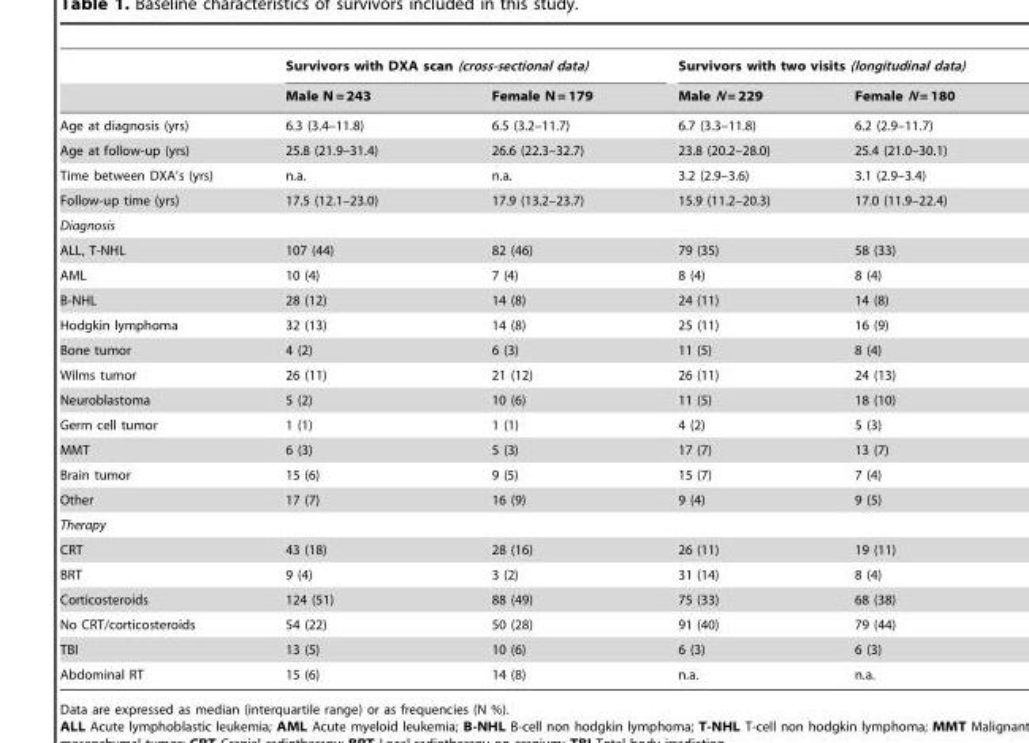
<table><thead><tr><td rowspan="2"></td><td colspan="2">Survivors with DXA scan (cross-sectional data)</td><td colspan="2">Survivors with two visits (longitudinal data)</td></tr><tr><td>Male N = 243</td><td>Female N = 179</td><td>Male N = 229</td><td>Female N = 180</td></tr></thead><tbody><tr><td>Age at diagnosis (yrs)</td><td>6.3 (3.4–11.8)</td><td>6.5 (3.2–11.7)</td><td>6.7 (3.3–11.8)</td><td>6.2 (2.9–11.7)</td></tr><tr><td>Age at follow-up (yrs)</td><td>25.8 (21.9–31.4)</td><td>26.6 (22.3–32.7)</td><td>23.8 (20.2–28.0)</td><td>25.4 (21.0–30.1)</td></tr><tr><td>Time between DXA’s (yrs)</td><td>n.a.</td><td>n.a.</td><td>3.2 (2.9–3.6)</td><td>3.1 (2.9–3.4)</td></tr><tr><td>Follow-up time (yrs)</td><td>17.5 (12.1–23.0)</td><td>17.9 (13.2–23.7)</td><td>15.9 (11.2–20.3)</td><td>17.0 (11.9–22.4)</td></tr><tr><td colspan="5">Diagnosis</td></tr><tr><td>ALL, T-NHL</td><td>107 (44)</td><td>82 (46)</td><td>79 (35)</td><td>58 (33)</td></tr><tr><td>AML</td><td>10 (4)</td><td>7 (4)</td><td>8 (4)</td><td>8 (4)</td></tr><tr><td>B-NHL</td><td>28 (12)</td><td>14 (8)</td><td>24 (11)</td><td>14 (8)</td></tr><tr><td>Hodgkin lymphoma</td><td>32 (13)</td><td>14 (8)</td><td>25 (11)</td><td>16 (9)</td></tr><tr><td>Bone tumor</td><td>4 (2)</td><td>6 (3)</td><td>11 (5)</td><td>8 (4)</td></tr><tr><td>Wilms tumor</td><td>26 (11)</td><td>21 (12)</td><td>26 (11)</td><td>24 (13)</td></tr><tr><td>Neuroblastoma</td><td>5 (2)</td><td>10 (6)</td><td>11 (5)</td><td>18 (10)</td></tr><tr><td>Germ cell tumor</td><td>1 (1)</td><td>1 (1)</td><td>4 (2)</td><td>5 (3)</td></tr><tr><td>MMT</td><td>6 (3)</td><td>5 (3)</td><td>17 (7)</td><td>13 (7)</td></tr><tr><td>Brain tumor</td><td>15 (6)</td><td>9 (5)</td><td>15 (7)</td><td>7 (4)</td></tr><tr><td>Other</td><td>17 (7)</td><td>16 (9)</td><td>9 (4)</td><td>9 (5)</td></tr><tr><td colspan="5">Therapy</td></tr><tr><td>CRT</td><td>43 (18)</td><td>28 (16)</td><td>26 (11)</td><td>19 (11)</td></tr><tr><td>BRT</td><td>9 (4)</td><td>3 (2)</td><td>31 (14)</td><td>8 (4)</td></tr><tr><td>Corticosteroids</td><td>124 (51)</td><td>88 (49)</td><td>75 (33)</td><td>68 (38)</td></tr><tr><td>No CRT/corticosteroids</td><td>54 (22)</td><td>50 (28)</td><td>91 (40)</td><td>79 (44)</td></tr><tr><td>TBI</td><td>13 (5)</td><td>10 (6)</td><td>6 (3)</td><td>6 (3)</td></tr><tr><td>Abdominal RT</td><td>15 (6)</td><td>14 (8)</td><td>n.a.</td><td>n.a.</td></tr></tbody></table>